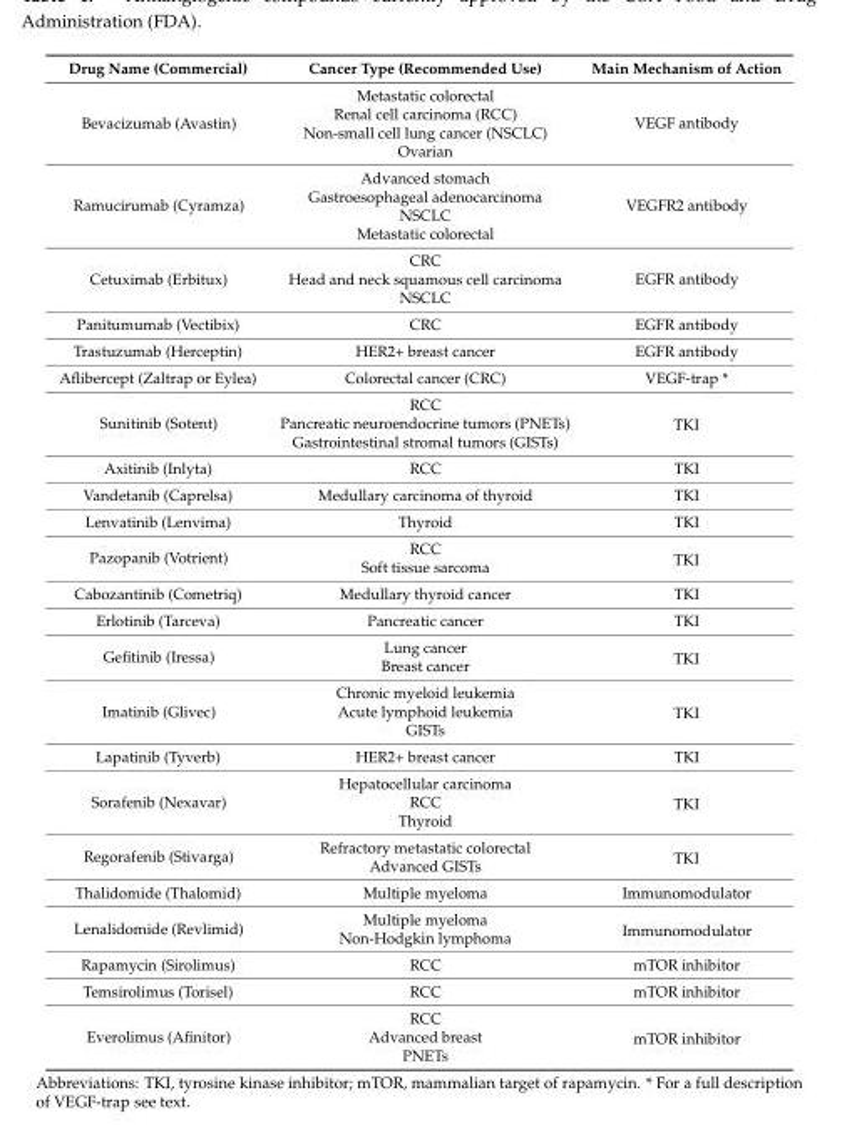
<table><thead><tr><td>Drug Name (Commercial)</td><td>Cancer Type (Recommended Use)</td><td>Main Mechanism of Action</td></tr></thead><tbody><tr><td rowspan="4">Bevacizumab (Avastin)</td><td>Metastatic colorectal</td><td rowspan="4">VEGF antibody</td></tr><tr><td>Renal cell carcinoma (RCC)</td></tr><tr><td>Non-small cell lung cancer (NSCLC)</td></tr><tr><td>Ovarian</td></tr><tr><td rowspan="4">Ramucirumab (Cyramza)</td><td>Advanced stomach</td><td rowspan="4">VEGFR2 antibody</td></tr><tr><td>Gastroesophageal adenocarcinoma</td></tr><tr><td>NSCLC</td></tr><tr><td>Metastatic colorectal</td></tr><tr><td rowspan="3">Cetuximab (Erbitux)</td><td>CRC</td><td rowspan="3">EGFR antibody</td></tr><tr><td>Head and neck squamous cell carcinoma</td></tr><tr><td>NSCLC</td></tr><tr><td>Panitumumab (Vectibix)</td><td>CRC</td><td>EGFR antibody</td></tr><tr><td>Trastuzumab (Herceptin)</td><td>HER2+ breast cancer</td><td>EGFR antibody</td></tr><tr><td>Aflibercept (Zaltrap or Eylea)</td><td>Colorectal cancer (CRC)</td><td>VEGF-trap *</td></tr><tr><td rowspan="3">Sunitinib (Sotent)</td><td>RCC</td><td rowspan="3">TKI</td></tr><tr><td>Pancreatic neuroendocrine tumors (PNETs)</td></tr><tr><td>Gastrointestinal stromal tumors (GISTs)</td></tr><tr><td>Axitinib (Inlyta)</td><td>RCC</td><td>TKI</td></tr><tr><td>Vandetanib (Caprelsa)</td><td>Medullary carcinoma of thyroid</td><td>TKI</td></tr><tr><td>Lenvatinib (Lenvima)</td><td>Thyroid</td><td>TKI</td></tr><tr><td rowspan="2">Pazopanib (Votrient)</td><td>RCC</td><td rowspan="2">TKI</td></tr><tr><td>Soft tissue sarcoma</td></tr><tr><td>Cabozantinib (Cometriq)</td><td>Medullary thyroid cancer</td><td>TKI</td></tr><tr><td>Erlotinib (Tarceva)</td><td>Pancreatic cancer</td><td>TKI</td></tr><tr><td rowspan="2">Gefitinib (Iressa)</td><td>Lung cancer</td><td rowspan="2">TKI</td></tr><tr><td>Breast cancer</td></tr><tr><td rowspan="3">Imatinib (Glivec)</td><td>Chronic myeloid leukemia</td><td rowspan="3">TKI</td></tr><tr><td>Acute lymphoid leukemia</td></tr><tr><td>GISTs</td></tr><tr><td>Lapatinib (Tyverb)</td><td>HER2+ breast cancer</td><td>TKI</td></tr><tr><td rowspan="3">Sorafenib (Nexavar)</td><td>Hepatocellular carcinoma</td><td rowspan="3">TKI</td></tr><tr><td>RCC</td></tr><tr><td>Thyroid</td></tr><tr><td rowspan="2">Regorafenib (Stivarga)</td><td>Refractory metastatic colorectal</td><td rowspan="2">TKI</td></tr><tr><td>Advanced GISTs</td></tr><tr><td>Thalidomide (Thalomid)</td><td>Multiple myeloma</td><td>Immunomodulator</td></tr><tr><td rowspan="2">Lenalidomide (Revlimid)</td><td>Multiple myeloma</td><td rowspan="2">Immunomodulator</td></tr><tr><td>Non-Hodgkin lymphoma</td></tr><tr><td>Rapamycin (Sirolimus)</td><td>RCC</td><td>mTOR inhibitor</td></tr><tr><td>Temsirolimus (Torisel)</td><td>RCC</td><td>mTOR inhibitor</td></tr><tr><td rowspan="3">Everolimus (Afinitor)</td><td>RCC</td><td rowspan="3">mTOR inhibitor</td></tr><tr><td>Advanced breast</td></tr><tr><td>PNETs</td></tr></tbody></table>